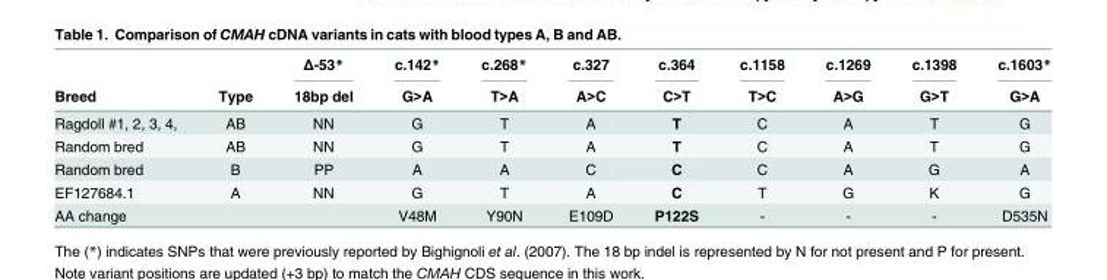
<table><thead><tr><td rowspan="2">Breed</td><td rowspan="2">Type</td><td rowspan="2">Δ-53* 18bp del</td><td rowspan="2">c.142* G&gt;A</td><td rowspan="2">c.268* T&gt;A</td><td rowspan="2">c.327 A&gt;C</td><td rowspan="2">c.364 C&gt;T</td><td rowspan="2">c.1158 T&gt;C</td><td rowspan="2">c.1269 A&gt;G</td><td rowspan="2">c.1398 G&gt;T</td><td rowspan="2">c.1603* G&gt;A</td></tr><tr></tr></thead><tbody><tr><td>Ragdoll #1, 2, 3, 4,</td><td>AB</td><td>NN</td><td>G</td><td>T</td><td>A</td><td>T</td><td>C</td><td>A</td><td>T</td><td>G</td></tr><tr><td>Random bred</td><td>AB</td><td>NN</td><td>G</td><td>T</td><td>A</td><td>T</td><td>C</td><td>A</td><td>T</td><td>G</td></tr><tr><td>Random bred</td><td>B</td><td>PP</td><td>A</td><td>A</td><td>C</td><td>C</td><td>C</td><td>A</td><td>G</td><td>A</td></tr><tr><td>EF127684.1</td><td>A</td><td>NN</td><td>G</td><td>T</td><td>A</td><td>C</td><td>T</td><td>G</td><td>K</td><td>G</td></tr><tr><td>AA change</td><td></td><td></td><td>V48M</td><td>Y90N</td><td>E109D</td><td>P122S</td><td>-</td><td>-</td><td>-</td><td>D535N</td></tr></tbody></table>